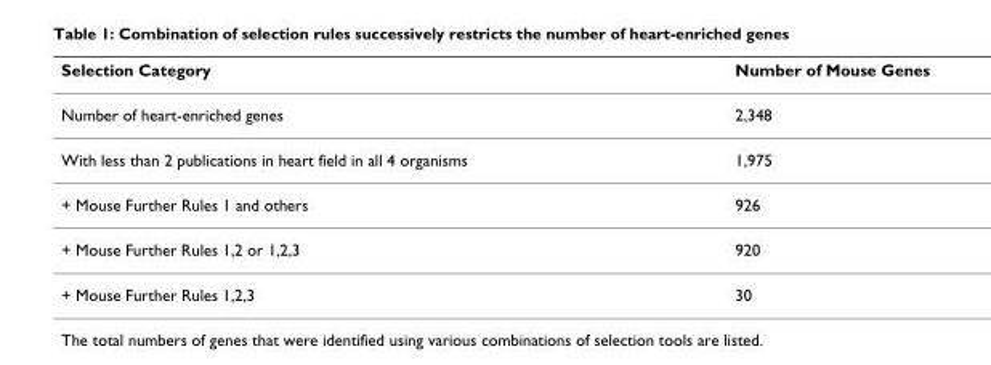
<table><thead><tr><td>Selection Category</td><td>Number of Mouse Genes</td></tr></thead><tbody><tr><td>Number of heart-enriched genes</td><td>2,348</td></tr><tr><td>With less than 2 publications in heart field in all 4 organisms</td><td>1,975</td></tr><tr><td>+ Mouse Further Rules 1 and others</td><td>926</td></tr><tr><td>+ Mouse Further Rules 1,2 or 1,2,3</td><td>920</td></tr><tr><td>+ Mouse Further Rules 1,2,3</td><td>30</td></tr></tbody></table>